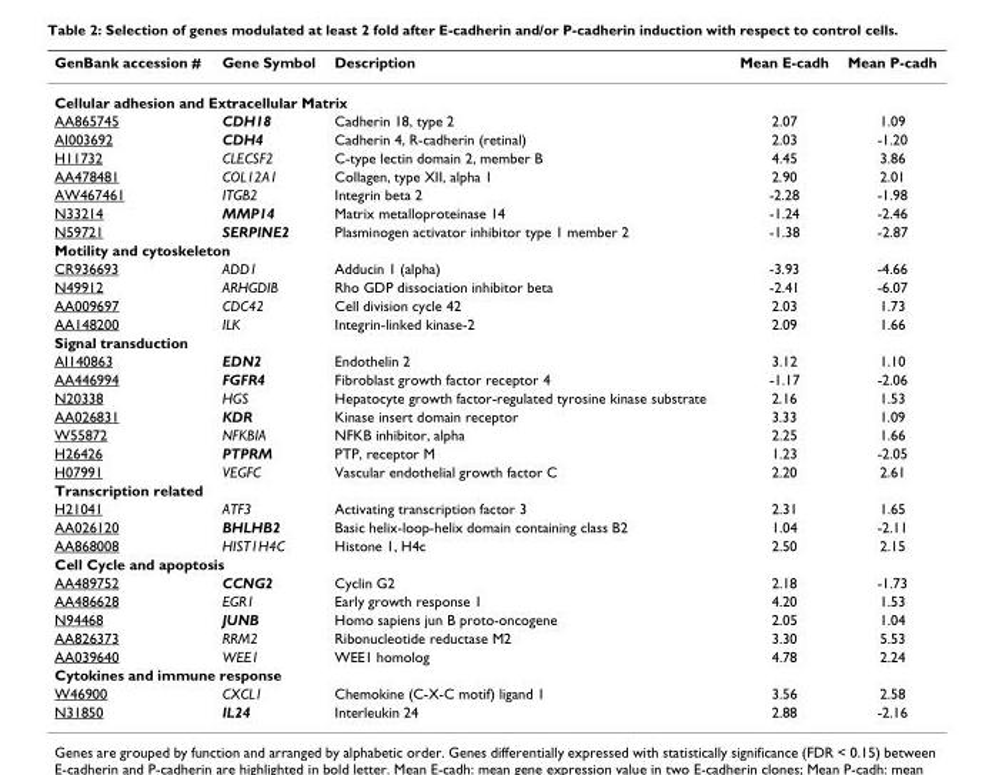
<table><thead><tr><td>GenBank accession #</td><td>Gene Symbol</td><td>Description</td><td>Mean E-cadh</td><td>Mean P-cadh</td></tr></thead><tbody><tr><td colspan="5">Cellular adhesion and Extracellular Matrix</td></tr><tr><td>AA865745</td><td>CDH18</td><td>Cadherin 18, type 2</td><td>2.07</td><td>1.09</td></tr><tr><td>AI003692</td><td>CDH4</td><td>Cadherin 4, R-cadherin (retinal)</td><td>2.03</td><td>-1.20</td></tr><tr><td>H11732</td><td>CLECSF2</td><td>C-type lectin domain 2, member B</td><td>4.45</td><td>3.86</td></tr><tr><td>AA478481</td><td>COL12A1</td><td>Collagen, type XII, alpha 1</td><td>2.90</td><td>2.01</td></tr><tr><td>AW467461</td><td>ITGB2</td><td>Integrin beta 2</td><td>-2.28</td><td>-1.98</td></tr><tr><td>N33214</td><td>MMP14</td><td>Matrix metalloproteinase 14</td><td>-1.24</td><td>-2.46</td></tr><tr><td>N59721</td><td>SERPINE2</td><td>Plasminogen activator inhibitor type 1 member 2</td><td>-1.38</td><td>-2.87</td></tr><tr><td colspan="5">Motility and cytoskeleton</td></tr><tr><td>CR936693</td><td>ADD1</td><td>Adducin 1 (alpha)</td><td>-3.93</td><td>-4.66</td></tr><tr><td>N49912</td><td>ARHGDIB</td><td>Rho GDP dissociation inhibitor beta</td><td>-2.41</td><td>-6.07</td></tr><tr><td>AA009697</td><td>CDC42</td><td>Cell division cycle 42</td><td>2.03</td><td>1.73</td></tr><tr><td>AA148200</td><td>ILK</td><td>Integrin-linked kinase-2</td><td>2.09</td><td>1.66</td></tr><tr><td colspan="5">Signal transduction</td></tr><tr><td>AI140863</td><td>EDN2</td><td>Endothelin 2</td><td>3.12</td><td>1.10</td></tr><tr><td>AA446994</td><td>FGFR4</td><td>Fibroblast growth factor receptor 4</td><td>-1.17</td><td>-2.06</td></tr><tr><td>N20338</td><td>HGS</td><td>Hepatocyte growth factor-regulated tyrosine kinase substrate</td><td>2.16</td><td>1.53</td></tr><tr><td>AA026831</td><td>KDR</td><td>Kinase insert domain receptor</td><td>3.33</td><td>1.09</td></tr><tr><td>W55872</td><td>NFKBIA</td><td>NFKB inhibitor, alpha</td><td>2.25</td><td>1.66</td></tr><tr><td>H26426</td><td>PTPRM</td><td>PTP, receptor M</td><td>1.23</td><td>-2.05</td></tr><tr><td>H07991</td><td>VEGFC</td><td>Vascular endothelial growth factor C</td><td>2.20</td><td>2.61</td></tr><tr><td colspan="5">Transcription related</td></tr><tr><td>H21041</td><td>ATF3</td><td>Activating transcription factor 3</td><td>2.31</td><td>1.65</td></tr><tr><td>AA026120</td><td>BHLHB2</td><td>Basic helix-loop-helix domain containing class B2</td><td>1.04</td><td>-2.11</td></tr><tr><td>AA868008</td><td>HIST1H4C</td><td>Histone 1, H4c</td><td>2.50</td><td>2.15</td></tr><tr><td colspan="5">Cell Cycle and apoptosis</td></tr><tr><td>AA489752</td><td>CCNG2</td><td>Cyclin G2</td><td>2.18</td><td>-1.73</td></tr><tr><td>AA486628</td><td>EGR1</td><td>Early growth response 1</td><td>4.20</td><td>1.53</td></tr><tr><td>N94468</td><td>JUNB</td><td>Homo sapiens jun B proto-oncogene</td><td>2.05</td><td>1.04</td></tr><tr><td>AA826373</td><td>RRM2</td><td>Ribonucleotide reductase M2</td><td>3.30</td><td>5.53</td></tr><tr><td>AA039640</td><td>WEE1</td><td>WEE1 homolog</td><td>4.78</td><td>2.24</td></tr><tr><td colspan="5">Cytokines and immune response</td></tr><tr><td>W46900</td><td>CXCL1</td><td>Chemokine (C-X-C motif) ligand 1</td><td>3.56</td><td>2.58</td></tr><tr><td>N31850</td><td>IL24</td><td>Interleukin 24</td><td>2.88</td><td>-2.16</td></tr></tbody></table>